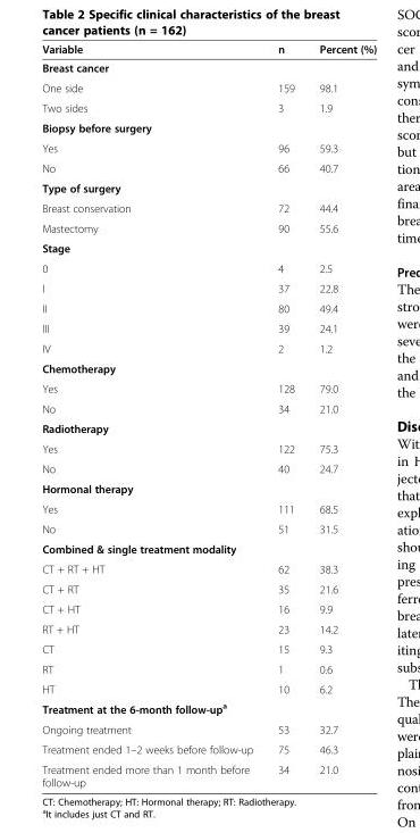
<table><thead><tr><td>Variable</td><td>n</td><td>Percent (%)</td></tr></thead><tbody><tr><td colspan="3">Breast cancer</td></tr><tr><td>One side</td><td>159</td><td>98.1</td></tr><tr><td>Two sides</td><td>3</td><td>1.9</td></tr><tr><td colspan="3">Biopsy before surgery</td></tr><tr><td>Yes</td><td>96</td><td>59.3</td></tr><tr><td>No</td><td>66</td><td>40.7</td></tr><tr><td colspan="3">Type of surgery</td></tr><tr><td>Breast conservation</td><td>72</td><td>44.4</td></tr><tr><td>Mastectomy</td><td>90</td><td>55.6</td></tr><tr><td colspan="3">Stage</td></tr><tr><td>0</td><td>4</td><td>2.5</td></tr><tr><td>I</td><td>37</td><td>22.8</td></tr><tr><td>II</td><td>80</td><td>49.4</td></tr><tr><td>III</td><td>39</td><td>24.1</td></tr><tr><td>IV</td><td>2</td><td>1.2</td></tr><tr><td colspan="3">Chemotherapy</td></tr><tr><td>Yes</td><td>128</td><td>79.0</td></tr><tr><td>No</td><td>34</td><td>21.0</td></tr><tr><td colspan="3">Radiotherapy</td></tr><tr><td>Yes</td><td>122</td><td>75.3</td></tr><tr><td>No</td><td>40</td><td>24.7</td></tr><tr><td colspan="3">Hormonal therapy</td></tr><tr><td>Yes</td><td>111</td><td>68.5</td></tr><tr><td>No</td><td>51</td><td>31.5</td></tr><tr><td colspan="3">Combined &amp; single treatment modality</td></tr><tr><td>CT + RT + HT</td><td>62</td><td>38.3</td></tr><tr><td>CT + RT</td><td>35</td><td>21.6</td></tr><tr><td>CT + HT</td><td>16</td><td>9.9</td></tr><tr><td>RT + HT</td><td>23</td><td>14.2</td></tr><tr><td>CT</td><td>15</td><td>9.3</td></tr><tr><td>RT</td><td>1</td><td>0.6</td></tr><tr><td>HT</td><td>10</td><td>6.2</td></tr><tr><td colspan="3">Treatment at the 6-month follow-up<sup>a</sup></td></tr><tr><td>Ongoing treatment</td><td>53</td><td>32.7</td></tr><tr><td>Treatment ended 1–2 weeks before follow-up</td><td>75</td><td>46.3</td></tr><tr><td>Treatment ended more than 1 month before follow-up</td><td>34</td><td>21.0</td></tr></tbody></table>